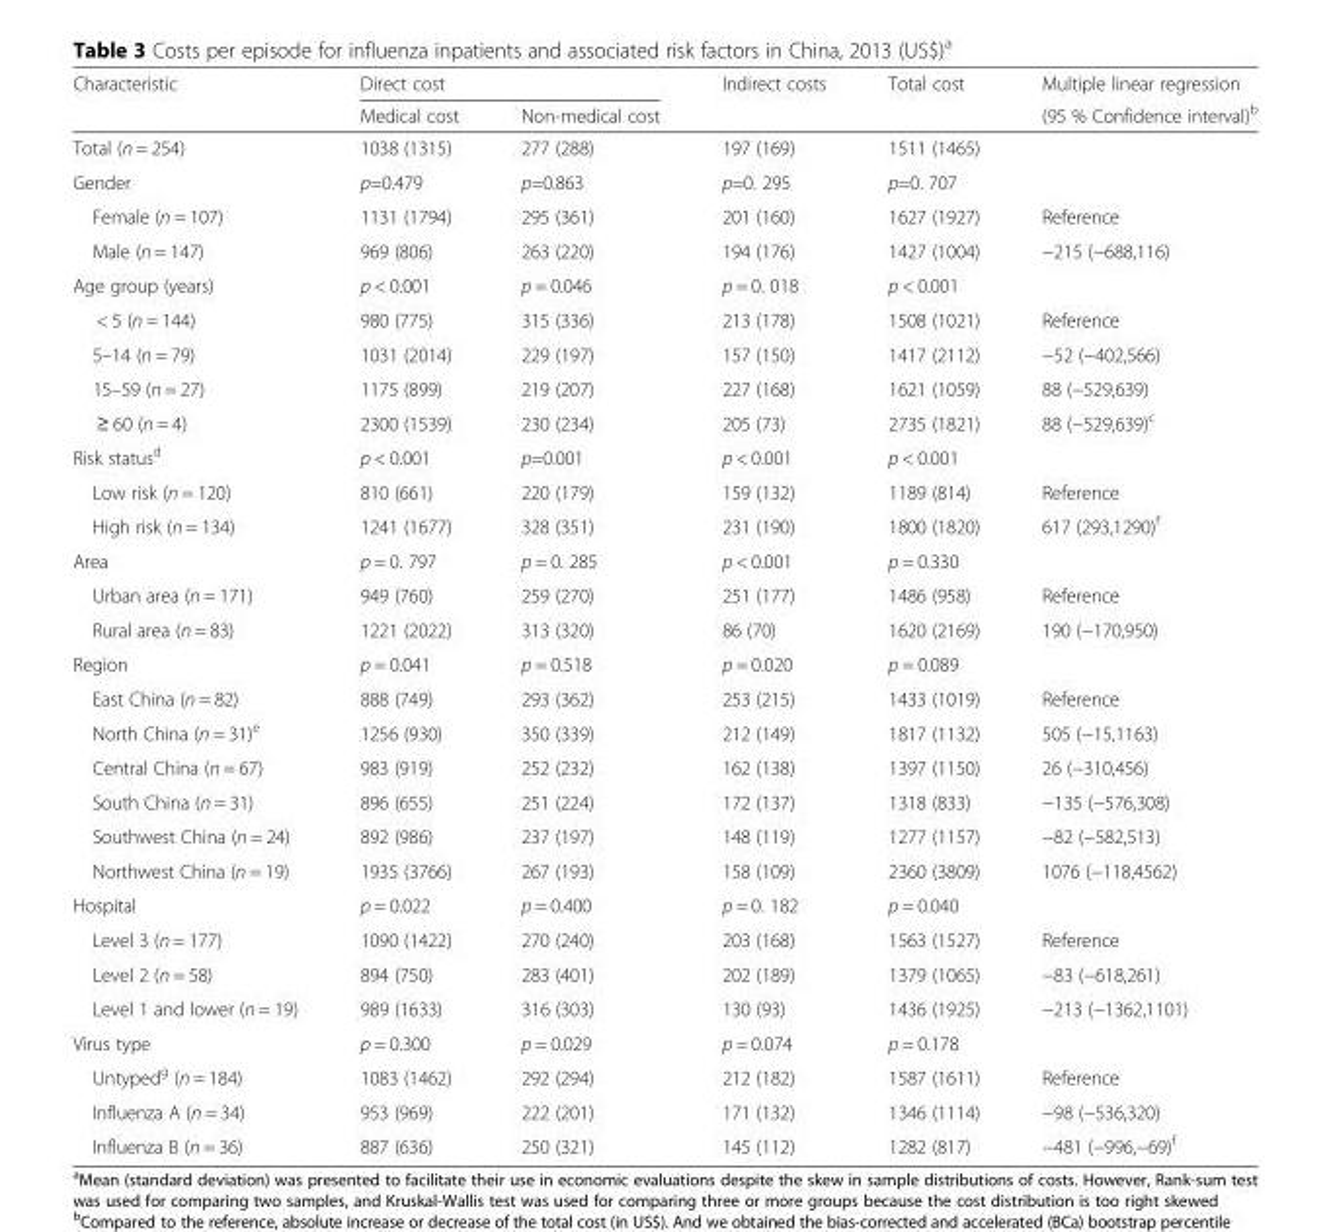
<table><thead><tr><td rowspan="2">Characteristic</td><td colspan="2">Direct cost</td><td rowspan="2">Indirect costs</td><td rowspan="2">Total cost</td><td rowspan="2">Multiple linear regression (95 % Confidence interval)<sup>b</sup></td></tr><tr><td>Medical cost</td><td>Non-medical cost</td></tr></thead><tbody><tr><td>Total (n = 254)</td><td>1038 (1315)</td><td>277 (288)</td><td>197 (169)</td><td>1511 (1465)</td><td></td></tr><tr><td>Gender</td><td>p=0.479</td><td>p=0.863</td><td>p=0. 295</td><td>p=0. 707</td><td></td></tr><tr><td>Female (n = 107)</td><td>1131 (1794)</td><td>295 (361)</td><td>201 (160)</td><td>1627 (1927)</td><td>Reference</td></tr><tr><td>Male (n = 147)</td><td>969 (806)</td><td>263 (220)</td><td>194 (176)</td><td>1427 (1004)</td><td>−215 (−688,116)</td></tr><tr><td>Age group (years)</td><td>p &lt; 0.001</td><td>p = 0.046</td><td>p = 0. 018</td><td>p &lt; 0.001</td><td></td></tr><tr><td>&lt; 5 (n = 144)</td><td>980 (775)</td><td>315 (336)</td><td>213 (178)</td><td>1508 (1021)</td><td>Reference</td></tr><tr><td>5–14 (n = 79)</td><td>1031 (2014)</td><td>229 (197)</td><td>157 (150)</td><td>1417 (2112)</td><td>−52 (−402,566)</td></tr><tr><td>15–59 (n = 27)</td><td>1175 (899)</td><td>219 (207)</td><td>227 (168)</td><td>1621 (1059)</td><td>88 (−529,639)</td></tr><tr><td>≥ 60 (n = 4)</td><td>2300 (1539)</td><td>230 (234)</td><td>205 (73)</td><td>2735 (1821)</td><td>88 (−529,639)<sup>c</sup></td></tr><tr><td>Risk status<sup>d</sup></td><td>p &lt; 0.001</td><td>p=0.001</td><td>p &lt; 0.001</td><td>p &lt; 0.001</td><td></td></tr><tr><td>Low risk (n = 120)</td><td>810 (661)</td><td>220 (179)</td><td>159 (132)</td><td>1189 (814)</td><td>Reference</td></tr><tr><td>High risk (n = 134)</td><td>1241 (1677)</td><td>328 (351)</td><td>231 (190)</td><td>1800 (1820)</td><td>617 (293,1290)<sup>f</sup></td></tr><tr><td>Area</td><td>p = 0. 797</td><td>p = 0. 285</td><td>p &lt; 0.001</td><td>p = 0.330</td><td></td></tr><tr><td>Urban area (n = 171)</td><td>949 (760)</td><td>259 (270)</td><td>251 (177)</td><td>1486 (958)</td><td>Reference</td></tr><tr><td>Rural area (n = 83)</td><td>1221 (2022)</td><td>313 (320)</td><td>86 (70)</td><td>1620 (2169)</td><td>190 (−170,950)</td></tr><tr><td>Region</td><td>p = 0.041</td><td>p = 0.518</td><td>p = 0.020</td><td>p = 0.089</td><td></td></tr><tr><td>East China (n = 82)</td><td>888 (749)</td><td>293 (362)</td><td>253 (215)</td><td>1433 (1019)</td><td>Reference</td></tr><tr><td>North China (n = 31)<sup>e</sup></td><td>1256 (930)</td><td>350 (339)</td><td>212 (149)</td><td>1817 (1132)</td><td>505 (−15,1163)</td></tr><tr><td>Central China (n = 67)</td><td>983 (919)</td><td>252 (232)</td><td>162 (138)</td><td>1397 (1150)</td><td>26 (−310,456)</td></tr><tr><td>South China (n = 31)</td><td>896 (655)</td><td>251 (224)</td><td>172 (137)</td><td>1318 (833)</td><td>−135 (−576,308)</td></tr><tr><td>Southwest China (n = 24)</td><td>892 (986)</td><td>237 (197)</td><td>148 (119)</td><td>1277 (1157)</td><td>−82 (−582,513)</td></tr><tr><td>Northwest China (n = 19)</td><td>1935 (3766)</td><td>267 (193)</td><td>158 (109)</td><td>2360 (3809)</td><td>1076 (−118,4562)</td></tr><tr><td>Hospital</td><td>p = 0.022</td><td>p = 0.400</td><td>p = 0. 182</td><td>p = 0.040</td><td></td></tr><tr><td>Level 3 (n = 177)</td><td>1090 (1422)</td><td>270 (240)</td><td>203 (168)</td><td>1563 (1527)</td><td>Reference</td></tr><tr><td>Level 2 (n = 58)</td><td>894 (750)</td><td>283 (401)</td><td>202 (189)</td><td>1379 (1065)</td><td>−83 (−618,261)</td></tr><tr><td>Level 1 and lower (n = 19)</td><td>989 (1633)</td><td>316 (303)</td><td>130 (93)</td><td>1436 (1925)</td><td>−213 (−1362,1101)</td></tr><tr><td>Virus type</td><td>p = 0.300</td><td>p = 0.029</td><td>p = 0.074</td><td>p = 0.178</td><td></td></tr><tr><td>Untyped<sup>g</sup> (n = 184)</td><td>1083 (1462)</td><td>292 (294)</td><td>212 (182)</td><td>1587 (1611)</td><td>Reference</td></tr><tr><td>Influenza A (n = 34)</td><td>953 (969)</td><td>222 (201)</td><td>171 (132)</td><td>1346 (1114)</td><td>−98 (−536,320)</td></tr><tr><td>Influenza B (n = 36)</td><td>887 (636)</td><td>250 (321)</td><td>145 (112)</td><td>1282 (817)</td><td>−481 (−996,−69)<sup>f</sup></td></tr></tbody></table>